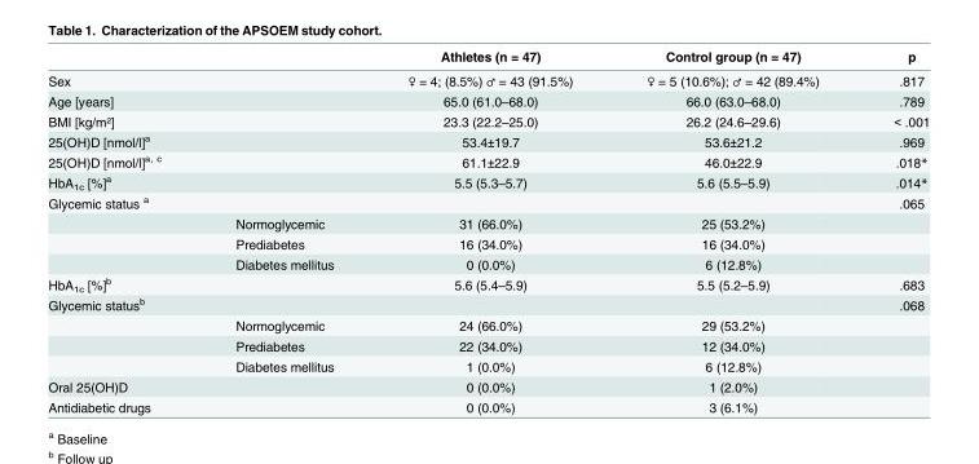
<table><thead><tr><td></td><td></td><td>Athletes (n = 47)</td><td>Control group (n = 47)</td><td>p</td></tr></thead><tbody><tr><td>Sex</td><td></td><td>♀ = 4; (8.5%) ♂ = 43 (91.5%)</td><td>♀ = 5 (10.6%); ♂ = 42 (89.4%)</td><td>.817</td></tr><tr><td>Age [years]</td><td></td><td>65.0 (61.0–68.0)</td><td>66.0 (63.0–68.0)</td><td>.789</td></tr><tr><td>BMI [kg/m²]</td><td></td><td>23.3 (22.2–25.0)</td><td>26.2 (24.6–29.6)</td><td>&lt; .001</td></tr><tr><td>25(OH)D [nmol/l]<sup>a</sup></td><td></td><td>53.4±19.7</td><td>53.6±21.2</td><td>.969</td></tr><tr><td>25(OH)D [nmol/l]<sup>a, c</sup></td><td></td><td>61.1±22.9</td><td>46.0±22.9</td><td>.018*</td></tr><tr><td>HbA<sub>1c</sub> [%]<sup>a</sup></td><td></td><td>5.5 (5.3–5.7)</td><td>5.6 (5.5–5.9)</td><td>.014*</td></tr><tr><td rowspan="4">Glycemic status <sup>a</sup></td><td></td><td></td><td></td><td>.065</td></tr><tr><td>Normoglycemic</td><td>31 (66.0%)</td><td>25 (53.2%)</td><td></td></tr><tr><td>Prediabetes</td><td>16 (34.0%)</td><td>16 (34.0%)</td><td></td></tr><tr><td>Diabetes mellitus</td><td>0 (0.0%)</td><td>6 (12.8%)</td><td></td></tr><tr><td>HbA<sub>1c</sub> [%]<sup>b</sup></td><td></td><td>5.6 (5.4–5.9)</td><td>5.5 (5.2–5.9)</td><td>.683</td></tr><tr><td rowspan="4">Glycemic status<sup>b</sup></td><td></td><td></td><td></td><td>.068</td></tr><tr><td>Normoglycemic</td><td>24 (66.0%)</td><td>29 (53.2%)</td><td></td></tr><tr><td>Prediabetes</td><td>22 (34.0%)</td><td>12 (34.0%)</td><td></td></tr><tr><td>Diabetes mellitus</td><td>1 (0.0%)</td><td>6 (12.8%)</td><td></td></tr><tr><td>Oral 25(OH)D</td><td></td><td>0 (0.0%)</td><td>1 (2.0%)</td><td></td></tr><tr><td>Antidiabetic drugs</td><td></td><td>0 (0.0%)</td><td>3 (6.1%)</td><td></td></tr></tbody></table>